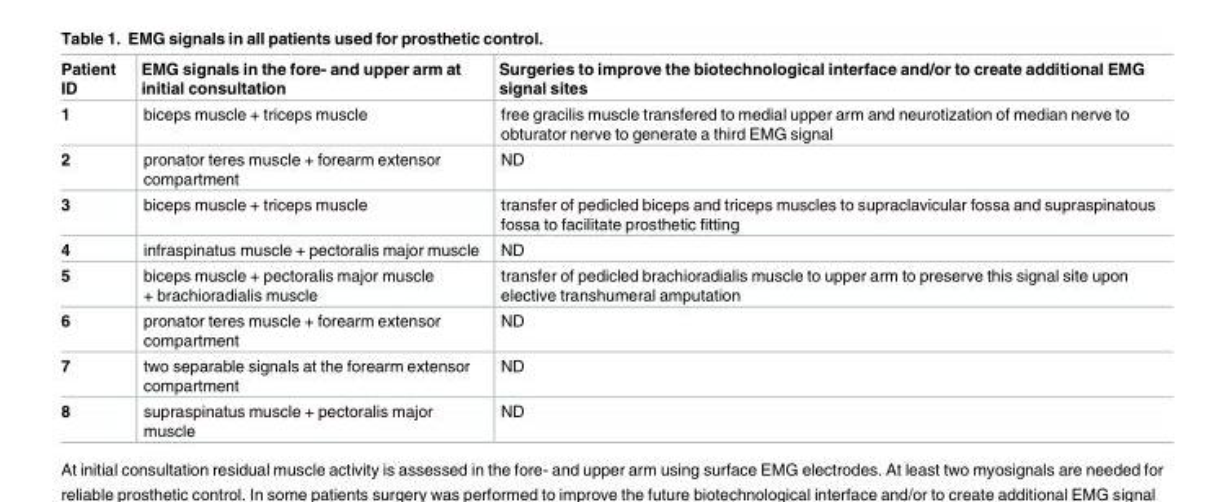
<table><thead><tr><td>Patient ID</td><td>EMG signals in the fore- and upper arm at initial consultation</td><td>Surgeries to improve the biotechnological interface and/or to create additional EMG signal sites</td></tr></thead><tbody><tr><td>1</td><td>biceps muscle + triceps muscle</td><td>free gracilis muscle transfered to medial upper arm and neurotization of median nerve to obturator nerve to generate a third EMG signal</td></tr><tr><td>2</td><td>pronator teres muscle + forearm extensor compartment</td><td>ND</td></tr><tr><td>3</td><td>biceps muscle + triceps muscle</td><td>transfer of pedicled biceps and triceps muscles to supraclavicular fossa and supraspinatous fossa to facilitate prosthetic fitting</td></tr><tr><td>4</td><td>infraspinatus muscle + pectoralis major muscle</td><td>ND</td></tr><tr><td>5</td><td>biceps muscle + pectoralis major muscle + brachioradialis muscle</td><td>transfer of pedicled brachioradialis muscle to upper arm to preserve this signal site upon elective transhumeral amputation</td></tr><tr><td>6</td><td>pronator teres muscle + forearm extensor compartment</td><td>ND</td></tr><tr><td>7</td><td>two separable signals at the forearm extensor compartment</td><td>ND</td></tr><tr><td>8</td><td>supraspinatus muscle + pectoralis major muscle</td><td>ND</td></tr></tbody></table>